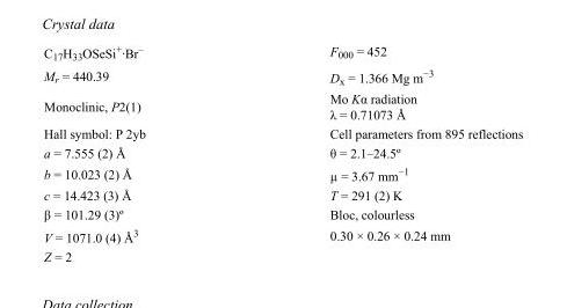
<table><tbody><tr><td>C<sub>17</sub>H<sub>33</sub>OSeSi<sup>+</sup>·Br<sup>–</sup></td><td>F<sub>000</sub> = 452</td></tr><tr><td>M<sub>r</sub> = 440.39</td><td>D<sub>x</sub> = 1.366 Mg m<sup>−3</sup></td></tr><tr><td>Monoclinic, P2(1)</td><td>Mo Kα radiation λ = 0.71073 Å</td></tr><tr><td>Hall symbol: P 2yb</td><td>Cell parameters from 895 reflections</td></tr><tr><td>a = 7.555 (2) Å</td><td>θ = 2.1–24.5º</td></tr><tr><td>b = 10.023 (2) Å</td><td>µ = 3.67 mm<sup>−1</sup></td></tr><tr><td>c = 14.423 (3) Å</td><td>T = 291 (2) K</td></tr><tr><td>β = 101.29 (3)º</td><td>Bloc, colourless</td></tr><tr><td>V = 1071.0 (4) Å<sup>3</sup></td><td>0.30 × 0.26 × 0.24 mm</td></tr><tr><td>Z = 2</td><td></td></tr></tbody></table>